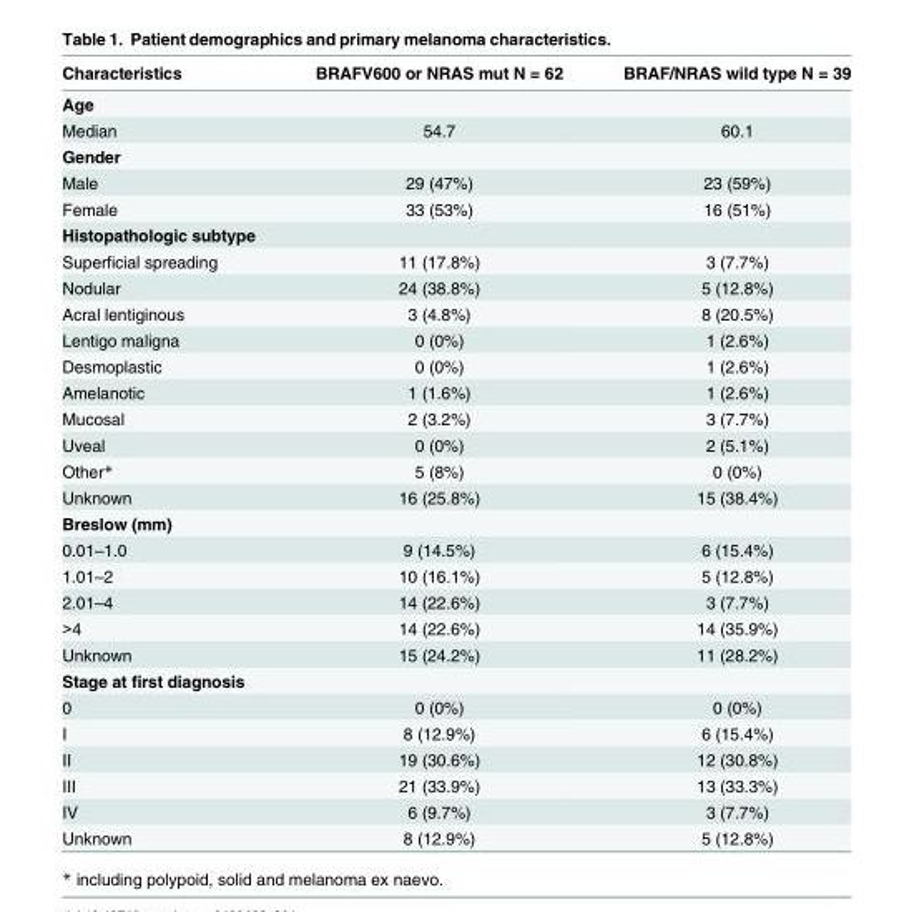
<table><thead><tr><td>Characteristics</td><td>BRAFV600 or NRAS mut N = 62</td><td>BRAF/NRAS wild type N = 39</td></tr></thead><tbody><tr><td colspan="3">Age</td></tr><tr><td>Median</td><td>54.7</td><td>60.1</td></tr><tr><td colspan="3">Gender</td></tr><tr><td>Male</td><td>29 (47%)</td><td>23 (59%)</td></tr><tr><td>Female</td><td>33 (53%)</td><td>16 (51%)</td></tr><tr><td colspan="3">Histopathologic subtype</td></tr><tr><td>Superficial spreading</td><td>11 (17.8%)</td><td>3 (7.7%)</td></tr><tr><td>Nodular</td><td>24 (38.8%)</td><td>5 (12.8%)</td></tr><tr><td>Acral lentiginous</td><td>3 (4.8%)</td><td>8 (20.5%)</td></tr><tr><td>Lentigo maligna</td><td>0 (0%)</td><td>1 (2.6%)</td></tr><tr><td>Desmoplastic</td><td>0 (0%)</td><td>1 (2.6%)</td></tr><tr><td>Amelanotic</td><td>1 (1.6%)</td><td>1 (2.6%)</td></tr><tr><td>Mucosal</td><td>2 (3.2%)</td><td>3 (7.7%)</td></tr><tr><td>Uveal</td><td>0 (0%)</td><td>2 (5.1%)</td></tr><tr><td>Other*</td><td>5 (8%)</td><td>0 (0%)</td></tr><tr><td>Unknown</td><td>16 (25.8%)</td><td>15 (38.4%)</td></tr><tr><td colspan="3">Breslow (mm)</td></tr><tr><td>0.01–1.0</td><td>9 (14.5%)</td><td>6 (15.4%)</td></tr><tr><td>1.01–2</td><td>10 (16.1%)</td><td>5 (12.8%)</td></tr><tr><td>2.01–4</td><td>14 (22.6%)</td><td>3 (7.7%)</td></tr><tr><td>&gt;4</td><td>14 (22.6%)</td><td>14 (35.9%)</td></tr><tr><td>Unknown</td><td>15 (24.2%)</td><td>11 (28.2%)</td></tr><tr><td colspan="3">Stage at first diagnosis</td></tr><tr><td>0</td><td>0 (0%)</td><td>0 (0%)</td></tr><tr><td>I</td><td>8 (12.9%)</td><td>6 (15.4%)</td></tr><tr><td>II</td><td>19 (30.6%)</td><td>12 (30.8%)</td></tr><tr><td>III</td><td>21 (33.9%)</td><td>13 (33.3%)</td></tr><tr><td>IV</td><td>6 (9.7%)</td><td>3 (7.7%)</td></tr><tr><td>Unknown</td><td>8 (12.9%)</td><td>5 (12.8%)</td></tr></tbody></table>